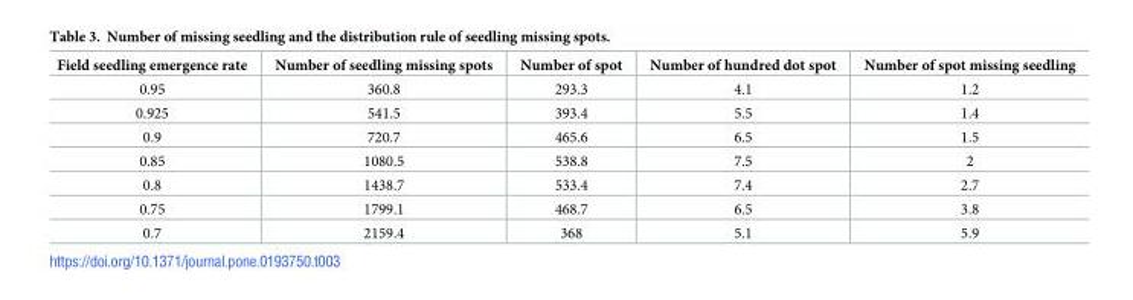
<table><thead><tr><td>Field seedling emergence rate</td><td>Number of seedling missing spots</td><td>Number of spot</td><td>Number of hundred dot spot</td><td>Number of spot missing seedling</td></tr></thead><tbody><tr><td>0.95</td><td>360.8</td><td>293.3</td><td>4.1</td><td>1.2</td></tr><tr><td>0.925</td><td>541.5</td><td>393.4</td><td>5.5</td><td>1.4</td></tr><tr><td>0.9</td><td>720.7</td><td>465.6</td><td>6.5</td><td>1.5</td></tr><tr><td>0.85</td><td>1080.5</td><td>538.8</td><td>7.5</td><td>2</td></tr><tr><td>0.8</td><td>1438.7</td><td>533.4</td><td>7.4</td><td>2.7</td></tr><tr><td>0.75</td><td>1799.1</td><td>468.7</td><td>6.5</td><td>3.8</td></tr><tr><td>0.7</td><td>2159.4</td><td>368</td><td>5.1</td><td>5.9</td></tr></tbody></table>